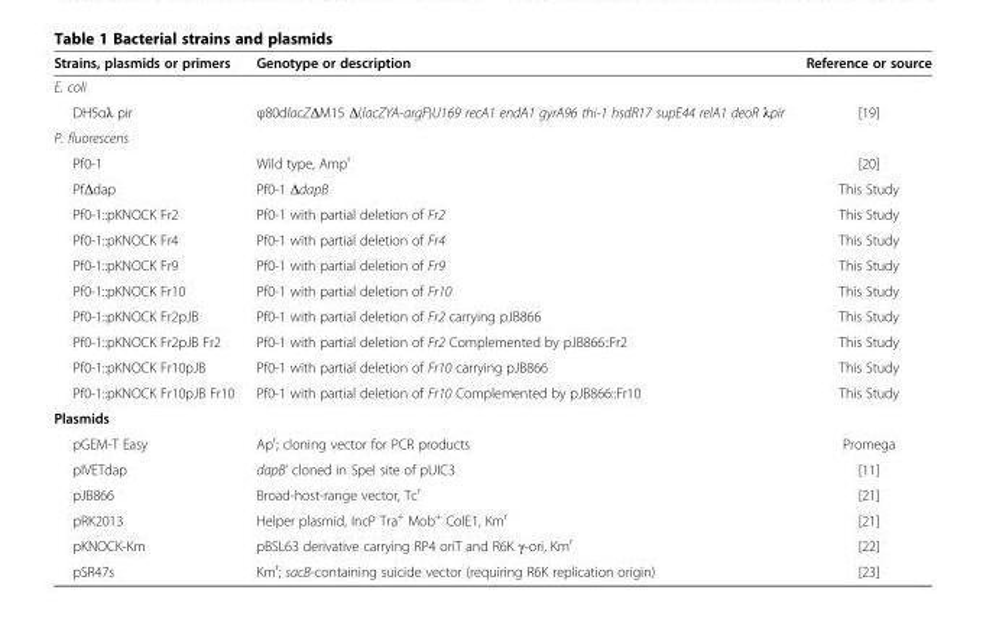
<table><thead><tr><td>Strains, plasmids or primers</td><td>Genotype or description</td><td>Reference or source</td></tr></thead><tbody><tr><td colspan="3">E. coli</td></tr><tr><td>DH5αλ pir</td><td>φ80dlacZΔM15 Δ(lacZYA-argF)U169 recA1 endA1 gyrA96 thi-1 hsdR17 supE44 relA1 deoR λpir</td><td>[19]</td></tr><tr><td colspan="3">P. fluorescens</td></tr><tr><td>Pf0-1</td><td>Wild type, Amp<sup>r</sup></td><td>[20]</td></tr><tr><td>PfΔdap</td><td>Pf0-1 ΔdapB</td><td>This Study</td></tr><tr><td>Pf0-1::pKNOCK Fr2</td><td>Pf0-1 with partial deletion of Fr2</td><td>This Study</td></tr><tr><td>Pf0-1::pKNOCK Fr4</td><td>Pf0-1 with partial deletion of Fr4</td><td>This Study</td></tr><tr><td>Pf0-1::pKNOCK Fr9</td><td>Pf0-1 with partial deletion of Fr9</td><td>This Study</td></tr><tr><td>Pf0-1::pKNOCK Fr10</td><td>Pf0-1 with partial deletion of Fr10</td><td>This Study</td></tr><tr><td>Pf0-1::pKNOCK Fr2pJB</td><td>Pf0-1 with partial deletion of Fr2 carrying pJB866</td><td>This Study</td></tr><tr><td>Pf0-1::pKNOCK Fr2pJB Fr2</td><td>Pf0-1 with partial deletion of Fr2 Complemented by pJB866::Fr2</td><td>This Study</td></tr><tr><td>Pf0-1::pKNOCK Fr10pJB</td><td>Pf0-1 with partial deletion of Fr10 carrying pJB866</td><td>This Study</td></tr><tr><td>Pf0-1::pKNOCK Fr10pJB Fr10</td><td>Pf0-1 with partial deletion of Fr10 Complemented by pJB866::Fr10</td><td>This Study</td></tr><tr><td colspan="3">Plasmids</td></tr><tr><td>pGEM-T Easy</td><td>Ap<sup>r</sup>; cloning vector for PCR products</td><td>Promega</td></tr><tr><td>pIVETdap</td><td>dapB’ cloned in SpeI site of pUIC3</td><td>[11]</td></tr><tr><td>pJB866</td><td>Broad-host-range vector, Tc<sup>r</sup></td><td>[21]</td></tr><tr><td>pRK2013</td><td>Helper plasmid, IncP Tra<sup>+</sup> Mob<sup>+</sup> ColE1, Km<sup>r</sup></td><td>[21]</td></tr><tr><td>pKNOCK-Km</td><td>pBSL63 derivative carrying RP4 oriT and R6K γ-ori, Km<sup>r</sup></td><td>[22]</td></tr><tr><td>pSR47s</td><td>Km<sup>r</sup>; sacB-containing suicide vector (requiring R6K replication origin)</td><td>[23]</td></tr></tbody></table>